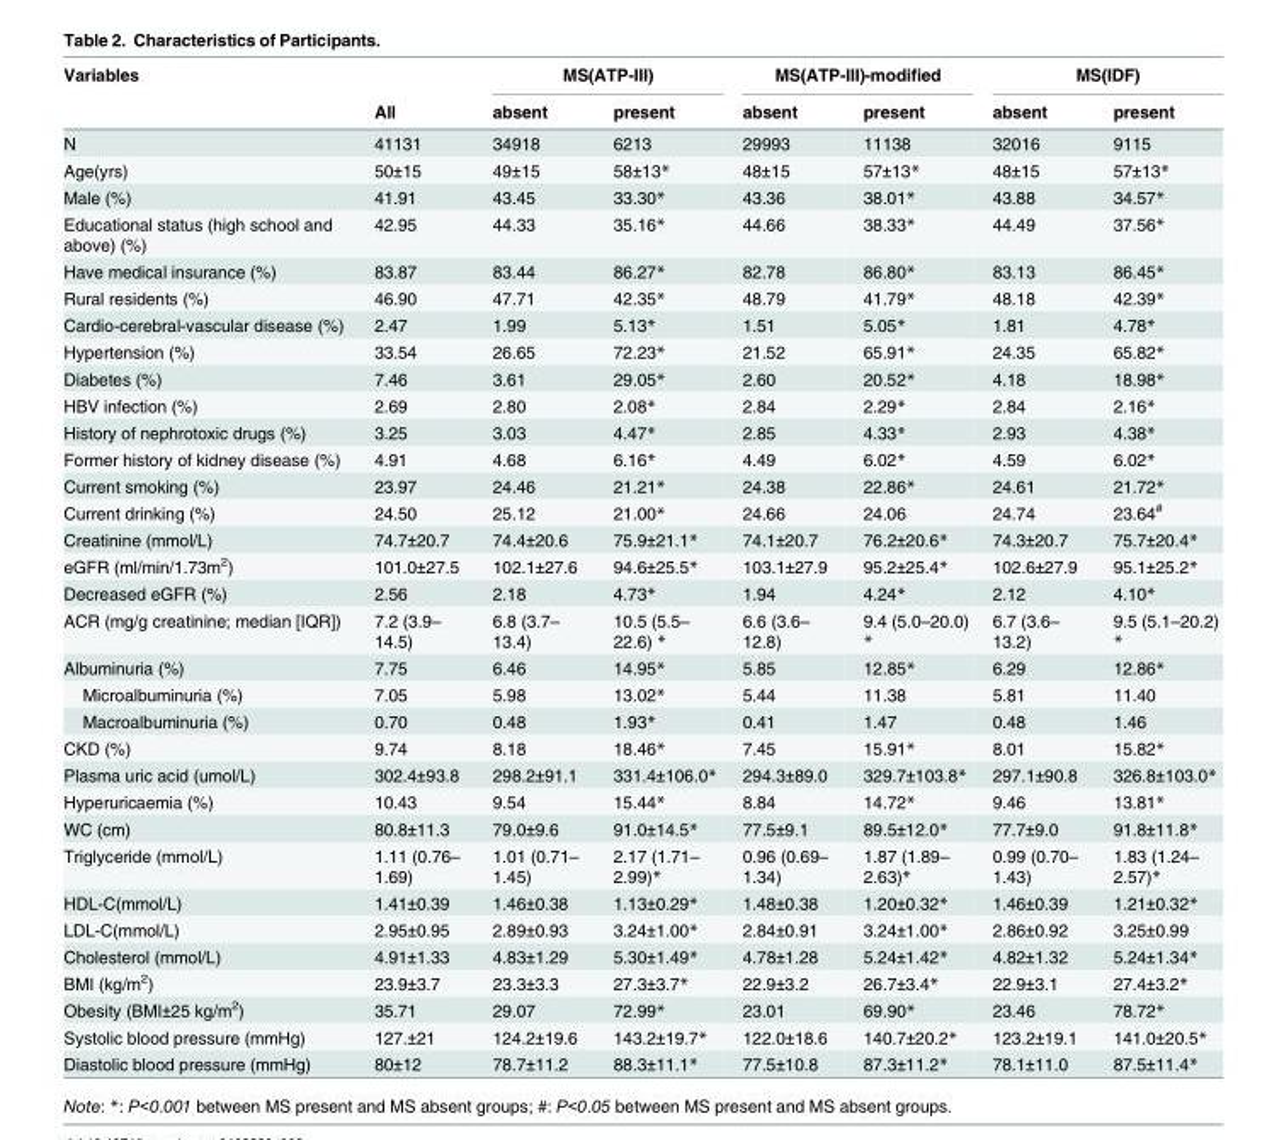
<table><thead><tr><td rowspan="2">Variables</td><td rowspan="2">All</td><td colspan="2">MS(ATP-III)</td><td colspan="2">MS(ATP-III)-modified</td><td colspan="2">MS(IDF)</td></tr><tr><td>absent</td><td>present</td><td>absent</td><td>present</td><td>absent</td><td>present</td></tr></thead><tbody><tr><td>N</td><td>41131</td><td>34918</td><td>6213</td><td>29993</td><td>11138</td><td>32016</td><td>9115</td></tr><tr><td>Age(yrs)</td><td>50±15</td><td>49±15</td><td>58±13*</td><td>48±15</td><td>57±13*</td><td>48±15</td><td>57±13*</td></tr><tr><td>Male (%)</td><td>41.91</td><td>43.45</td><td>33.30*</td><td>43.36</td><td>38.01*</td><td>43.88</td><td>34.57*</td></tr><tr><td>Educational status (high school and above) (%)</td><td>42.95</td><td>44.33</td><td>35.16*</td><td>44.66</td><td>38.33*</td><td>44.49</td><td>37.56*</td></tr><tr><td>Have medical insurance (%)</td><td>83.87</td><td>83.44</td><td>86.27*</td><td>82.78</td><td>86.80*</td><td>83.13</td><td>86.45*</td></tr><tr><td>Rural residents (%)</td><td>46.90</td><td>47.71</td><td>42.35*</td><td>48.79</td><td>41.79*</td><td>48.18</td><td>42.39*</td></tr><tr><td>Cardio-cerebral-vascular disease (%)</td><td>2.47</td><td>1.99</td><td>5.13*</td><td>1.51</td><td>5.05*</td><td>1.81</td><td>4.78*</td></tr><tr><td>Hypertension (%)</td><td>33.54</td><td>26.65</td><td>72.23*</td><td>21.52</td><td>65.91*</td><td>24.35</td><td>65.82*</td></tr><tr><td>Diabetes (%)</td><td>7.46</td><td>3.61</td><td>29.05*</td><td>2.60</td><td>20.52*</td><td>4.18</td><td>18.98*</td></tr><tr><td>HBV infection (%)</td><td>2.69</td><td>2.80</td><td>2.08*</td><td>2.84</td><td>2.29*</td><td>2.84</td><td>2.16*</td></tr><tr><td>History of nephrotoxic drugs (%)</td><td>3.25</td><td>3.03</td><td>4.47*</td><td>2.85</td><td>4.33*</td><td>2.93</td><td>4.38*</td></tr><tr><td>Former history of kidney disease (%)</td><td>4.91</td><td>4.68</td><td>6.16*</td><td>4.49</td><td>6.02*</td><td>4.59</td><td>6.02*</td></tr><tr><td>Current smoking (%)</td><td>23.97</td><td>24.46</td><td>21.21*</td><td>24.38</td><td>22.86*</td><td>24.61</td><td>21.72*</td></tr><tr><td>Current drinking (%)</td><td>24.50</td><td>25.12</td><td>21.00*</td><td>24.66</td><td>24.06</td><td>24.74</td><td>23.64<sup>#</sup></td></tr><tr><td>Creatinine (mmol/L)</td><td>74.7±20.7</td><td>74.4±20.6</td><td>75.9±21.1*</td><td>74.1±20.7</td><td>76.2±20.6*</td><td>74.3±20.7</td><td>75.7±20.4*</td></tr><tr><td>eGFR (ml/min/1.73m<sup>2</sup>)</td><td>101.0±27.5</td><td>102.1±27.6</td><td>94.6±25.5*</td><td>103.1±27.9</td><td>95.2±25.4*</td><td>102.6±27.9</td><td>95.1±25.2*</td></tr><tr><td>Decreased eGFR (%)</td><td>2.56</td><td>2.18</td><td>4.73*</td><td>1.94</td><td>4.24*</td><td>2.12</td><td>4.10*</td></tr><tr><td>ACR (mg/g creatinine; median [IQR])</td><td>7.2 (3.9– 14.5)</td><td>6.8 (3.7– 13.4)</td><td>10.5 (5.5– 22.6) *</td><td>6.6 (3.6– 12.8)</td><td>9.4 (5.0–20.0) *</td><td>6.7 (3.6– 13.2)</td><td>9.5 (5.1–20.2) *</td></tr><tr><td>Albuminuria (%)</td><td>7.75</td><td>6.46</td><td>14.95*</td><td>5.85</td><td>12.85*</td><td>6.29</td><td>12.86*</td></tr><tr><td>Microalbuminuria (%)</td><td>7.05</td><td>5.98</td><td>13.02*</td><td>5.44</td><td>11.38</td><td>5.81</td><td>11.40</td></tr><tr><td>Macroalbuminuria (%)</td><td>0.70</td><td>0.48</td><td>1.93*</td><td>0.41</td><td>1.47</td><td>0.48</td><td>1.46</td></tr><tr><td>CKD (%)</td><td>9.74</td><td>8.18</td><td>18.46*</td><td>7.45</td><td>15.91*</td><td>8.01</td><td>15.82*</td></tr><tr><td>Plasma uric acid (umol/L)</td><td>302.4±93.8</td><td>298.2±91.1</td><td>331.4±106.0*</td><td>294.3±89.0</td><td>329.7±103.8*</td><td>297.1±90.8</td><td>326.8±103.0*</td></tr><tr><td>Hyperuricaemia (%)</td><td>10.43</td><td>9.54</td><td>15.44*</td><td>8.84</td><td>14.72*</td><td>9.46</td><td>13.81*</td></tr><tr><td>WC (cm)</td><td>80.8±11.3</td><td>79.0±9.6</td><td>91.0±14.5*</td><td>77.5±9.1</td><td>89.5±12.0*</td><td>77.7±9.0</td><td>91.8±11.8*</td></tr><tr><td>Triglyceride (mmol/L)</td><td>1.11 (0.76– 1.69)</td><td>1.01 (0.71– 1.45)</td><td>2.17 (1.71– 2.99)*</td><td>0.96 (0.69– 1.34)</td><td>1.87 (1.89– 2.63)*</td><td>0.99 (0.70– 1.43)</td><td>1.83 (1.24– 2.57)*</td></tr><tr><td>HDL-C(mmol/L)</td><td>1.41±0.39</td><td>1.46±0.38</td><td>1.13±0.29*</td><td>1.48±0.38</td><td>1.20±0.32*</td><td>1.46±0.39</td><td>1.21±0.32*</td></tr><tr><td>LDL-C(mmol/L)</td><td>2.95±0.95</td><td>2.89±0.93</td><td>3.24±1.00*</td><td>2.84±0.91</td><td>3.24±1.00*</td><td>2.86±0.92</td><td>3.25±0.99</td></tr><tr><td>Cholesterol (mmol/L)</td><td>4.91±1.33</td><td>4.83±1.29</td><td>5.30±1.49*</td><td>4.78±1.28</td><td>5.24±1.42*</td><td>4.82±1.32</td><td>5.24±1.34*</td></tr><tr><td>BMI (kg/m<sup>2</sup>)</td><td>23.9±3.7</td><td>23.3±3.3</td><td>27.3±3.7*</td><td>22.9±3.2</td><td>26.7±3.4*</td><td>22.9±3.1</td><td>27.4±3.2*</td></tr><tr><td>Obesity (BMI±25 kg/m<sup>2</sup>)</td><td>35.71</td><td>29.07</td><td>72.99*</td><td>23.01</td><td>69.90*</td><td>23.46</td><td>78.72*</td></tr><tr><td>Systolic blood pressure (mmHg)</td><td>127.±21</td><td>124.2±19.6</td><td>143.2±19.7*</td><td>122.0±18.6</td><td>140.7±20.2*</td><td>123.2±19.1</td><td>141.0±20.5*</td></tr><tr><td>Diastolic blood pressure (mmHg)</td><td>80±12</td><td>78.7±11.2</td><td>88.3±11.1*</td><td>77.5±10.8</td><td>87.3±11.2*</td><td>78.1±11.0</td><td>87.5±11.4*</td></tr></tbody></table>